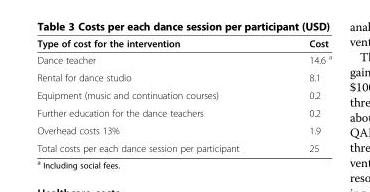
<table><thead><tr><td>Type of cost for the intervention</td><td>Cost</td></tr></thead><tbody><tr><td>Dance teacher</td><td>14.6 <sup>a</sup></td></tr><tr><td>Rental for dance studio</td><td>8.1</td></tr><tr><td>Equipment (music and continuation courses)</td><td>0.2</td></tr><tr><td>Further education for the dance teachers</td><td>0.2</td></tr><tr><td>Overhead costs 13%</td><td>1.9</td></tr><tr><td>Total costs per each dance session per participant</td><td>25</td></tr></tbody></table>